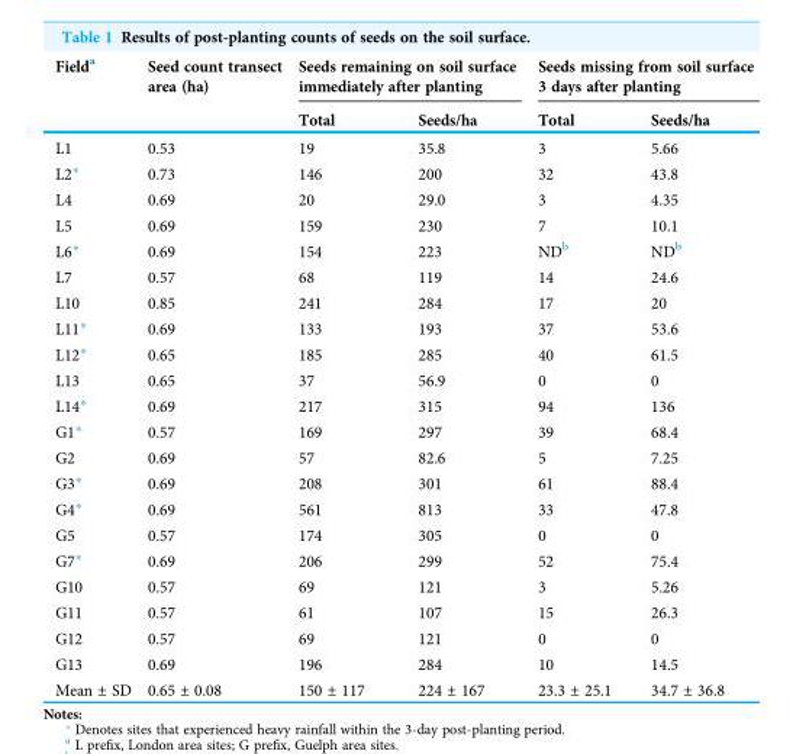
<table><thead><tr><td rowspan="2">Field<sup>a</sup></td><td rowspan="2">Seed count transect area (ha)</td><td colspan="2">Seeds remaining on soil surface immediately after planting</td><td colspan="2">Seeds missing from soil surface 3 days after planting</td></tr><tr><td>Total</td><td>Seeds/ha</td><td>Total</td><td>Seeds/ha</td></tr></thead><tbody><tr><td>L1</td><td>0.53</td><td>19</td><td>35.8</td><td>3</td><td>5.66</td></tr><tr><td>L2*</td><td>0.73</td><td>146</td><td>200</td><td>32</td><td>43.8</td></tr><tr><td>L4</td><td>0.69</td><td>20</td><td>29.0</td><td>3</td><td>4.35</td></tr><tr><td>L5</td><td>0.69</td><td>159</td><td>230</td><td>7</td><td>10.1</td></tr><tr><td>L6*</td><td>0.69</td><td>154</td><td>223</td><td>ND<sup>b</sup></td><td>ND<sup>b</sup></td></tr><tr><td>L7</td><td>0.57</td><td>68</td><td>119</td><td>14</td><td>24.6</td></tr><tr><td>L10</td><td>0.85</td><td>241</td><td>284</td><td>17</td><td>20</td></tr><tr><td>L11*</td><td>0.69</td><td>133</td><td>193</td><td>37</td><td>53.6</td></tr><tr><td>L12*</td><td>0.65</td><td>185</td><td>285</td><td>40</td><td>61.5</td></tr><tr><td>L13</td><td>0.65</td><td>37</td><td>56.9</td><td>0</td><td>0</td></tr><tr><td>L14*</td><td>0.69</td><td>217</td><td>315</td><td>94</td><td>136</td></tr><tr><td>G1*</td><td>0.57</td><td>169</td><td>297</td><td>39</td><td>68.4</td></tr><tr><td>G2</td><td>0.69</td><td>57</td><td>82.6</td><td>5</td><td>7.25</td></tr><tr><td>G3*</td><td>0.69</td><td>208</td><td>301</td><td>61</td><td>88.4</td></tr><tr><td>G4*</td><td>0.69</td><td>561</td><td>813</td><td>33</td><td>47.8</td></tr><tr><td>G5</td><td>0.57</td><td>174</td><td>305</td><td>0</td><td>0</td></tr><tr><td>G7*</td><td>0.69</td><td>206</td><td>299</td><td>52</td><td>75.4</td></tr><tr><td>G10</td><td>0.57</td><td>69</td><td>121</td><td>3</td><td>5.26</td></tr><tr><td>G11</td><td>0.57</td><td>61</td><td>107</td><td>15</td><td>26.3</td></tr><tr><td>G12</td><td>0.57</td><td>69</td><td>121</td><td>0</td><td>0</td></tr><tr><td>G13</td><td>0.69</td><td>196</td><td>284</td><td>10</td><td>14.5</td></tr><tr><td>Mean ± SD</td><td>0.65 ± 0.08</td><td>150 ± 117</td><td>224 ± 167</td><td>23.3 ± 25.1</td><td>34.7 ± 36.8</td></tr></tbody></table>